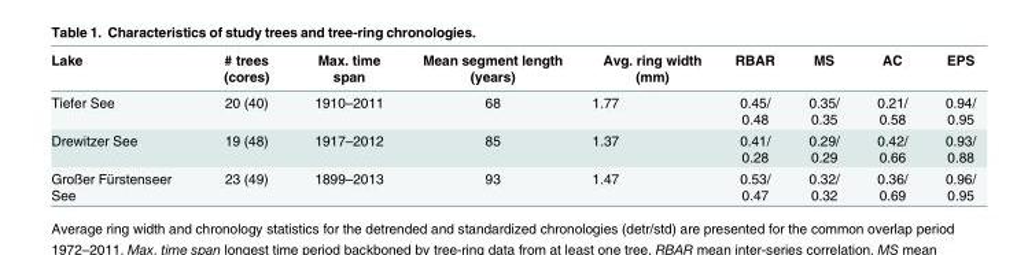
<table><thead><tr><td>Lake</td><td># trees (cores)</td><td>Max. time span</td><td>Mean segment length (years)</td><td>Avg. ring width (mm)</td><td>RBAR</td><td>MS</td><td>AC</td><td>EPS</td></tr></thead><tbody><tr><td>Tiefer See</td><td>20 (40)</td><td>1910–2011</td><td>68</td><td>1.77</td><td>0.45/ 0.48</td><td>0.35/ 0.35</td><td>0.21/ 0.58</td><td>0.94/ 0.95</td></tr><tr><td>Drewitzer See</td><td>19 (48)</td><td>1917–2012</td><td>85</td><td>1.37</td><td>0.41/ 0.28</td><td>0.29/ 0.29</td><td>0.42/ 0.66</td><td>0.93/ 0.88</td></tr><tr><td>Großer Fürstenseer See</td><td>23 (49)</td><td>1899–2013</td><td>93</td><td>1.47</td><td>0.53/ 0.47</td><td>0.32/ 0.32</td><td>0.36/ 0.69</td><td>0.96/ 0.95</td></tr></tbody></table>